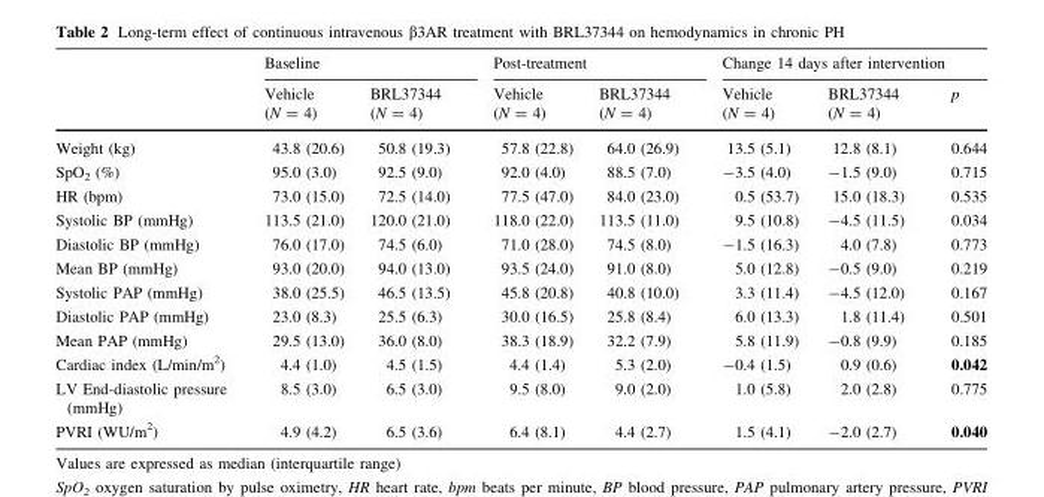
<table><thead><tr><td rowspan="2"></td><td colspan="2">Baseline</td><td colspan="2">Post-treatment</td><td colspan="3">Change 14 days after intervention</td></tr><tr><td>Vehicle (N = 4)</td><td>BRL37344 (N = 4)</td><td>Vehicle (N = 4)</td><td>BRL37344 (N = 4)</td><td>Vehicle (N = 4)</td><td>BRL37344 (N = 4)</td><td>p</td></tr></thead><tbody><tr><td>Weight (kg)</td><td>43.8 (20.6)</td><td>50.8 (19.3)</td><td>57.8 (22.8)</td><td>64.0 (26.9)</td><td>13.5 (5.1)</td><td>12.8 (8.1)</td><td>0.644</td></tr><tr><td>SpO<sub>2</sub> (%)</td><td>95.0 (3.0)</td><td>92.5 (9.0)</td><td>92.0 (4.0)</td><td>88.5 (7.0)</td><td>-3.5 (4.0)</td><td>-1.5 (9.0)</td><td>0.715</td></tr><tr><td>HR (bpm)</td><td>73.0 (15.0)</td><td>72.5 (14.0)</td><td>77.5 (47.0)</td><td>84.0 (23.0)</td><td>0.5 (53.7)</td><td>15.0 (18.3)</td><td>0.535</td></tr><tr><td>Systolic BP (mmHg)</td><td>113.5 (21.0)</td><td>120.0 (21.0)</td><td>118.0 (22.0)</td><td>113.5 (11.0)</td><td>9.5 (10.8)</td><td>-4.5 (11.5)</td><td>0.034</td></tr><tr><td>Diastolic BP (mmHg)</td><td>76.0 (17.0)</td><td>74.5 (6.0)</td><td>71.0 (28.0)</td><td>74.5 (8.0)</td><td>-1.5 (16.3)</td><td>4.0 (7.8)</td><td>0.773</td></tr><tr><td>Mean BP (mmHg)</td><td>93.0 (20.0)</td><td>94.0 (13.0)</td><td>93.5 (24.0)</td><td>91.0 (8.0)</td><td>5.0 (12.8)</td><td>-0.5 (9.0)</td><td>0.219</td></tr><tr><td>Systolic PAP (mmHg)</td><td>38.0 (25.5)</td><td>46.5 (13.5)</td><td>45.8 (20.8)</td><td>40.8 (10.0)</td><td>3.3 (11.4)</td><td>-4.5 (12.0)</td><td>0.167</td></tr><tr><td>Diastolic PAP (mmHg)</td><td>23.0 (8.3)</td><td>25.5 (6.3)</td><td>30.0 (16.5)</td><td>25.8 (8.4)</td><td>6.0 (13.3)</td><td>1.8 (11.4)</td><td>0.501</td></tr><tr><td>Mean PAP (mmHg)</td><td>29.5 (13.0)</td><td>36.0 (8.0)</td><td>38.3 (18.9)</td><td>32.2 (7.9)</td><td>5.8 (11.9)</td><td>-0.8 (9.9)</td><td>0.185</td></tr><tr><td>Cardiac index (L/min/m<sup>2</sup>)</td><td>4.4 (1.0)</td><td>4.5 (1.5)</td><td>4.4 (1.4)</td><td>5.3 (2.0)</td><td>-0.4 (1.5)</td><td>0.9 (0.6)</td><td>0.042</td></tr><tr><td>LV End-diastolic pressure (mmHg)</td><td>8.5 (3.0)</td><td>6.5 (3.0)</td><td>9.5 (8.0)</td><td>9.0 (2.0)</td><td>1.0 (5.8)</td><td>2.0 (2.8)</td><td>0.775</td></tr><tr><td>PVRI (WU/m<sup>2</sup>)</td><td>4.9 (4.2)</td><td>6.5 (3.6)</td><td>6.4 (8.1)</td><td>4.4 (2.7)</td><td>1.5 (4.1)</td><td>-2.0 (2.7)</td><td>0.040</td></tr></tbody></table>